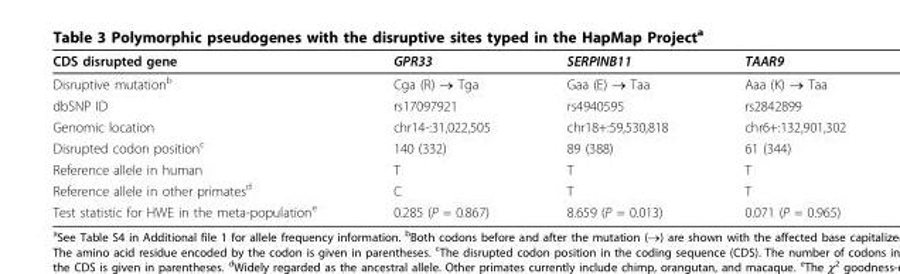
<table><thead><tr><td>CDS disrupted gene</td><td>GPR33</td><td>SERPINB11</td><td>TAAR9</td></tr></thead><tbody><tr><td>Disruptive mutation<sup>b</sup></td><td>Cga (R) → Tga</td><td>Gaa (E) → Taa</td><td>Aaa (K) → Taa</td></tr><tr><td>dbSNP ID</td><td>rs17097921</td><td>rs4940595</td><td>rs2842899</td></tr><tr><td>Genomic location</td><td>chr14-:31,022,505</td><td>chr18+:59,530,818</td><td>chr6+:132,901,302</td></tr><tr><td>Disrupted codon position<sup>c</sup></td><td>140 (332)</td><td>89 (388)</td><td>61 (344)</td></tr><tr><td>Reference allele in human</td><td>T</td><td>T</td><td>T</td></tr><tr><td>Reference allele in other primates<sup>d</sup></td><td>C</td><td>T</td><td>T</td></tr><tr><td>Test statistic for HWE in the meta-population<sup>e</sup></td><td>0.285 (P = 0.867)</td><td>8.659 (P = 0.013)</td><td>0.071 (P = 0.965)</td></tr></tbody></table>